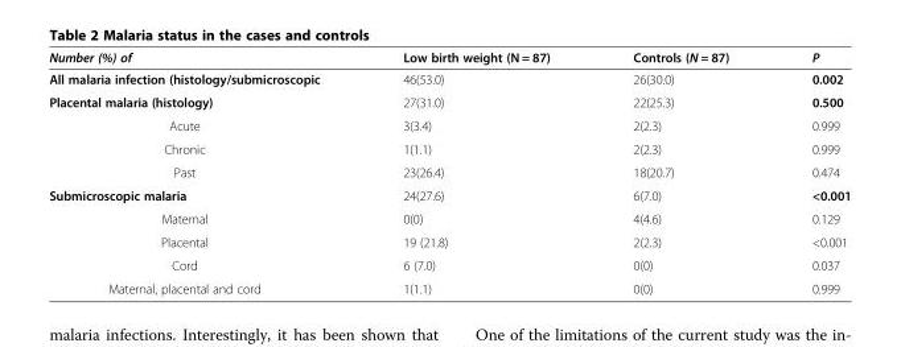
<table><thead><tr><td>Number (%) of</td><td>Low birth weight (N = 87)</td><td>Controls (N = 87)</td><td>P</td></tr></thead><tbody><tr><td>All malaria infection (histology/submicroscopic</td><td>46(53.0)</td><td>26(30.0)</td><td>0.002</td></tr><tr><td>Placental malaria (histology)</td><td>27(31.0)</td><td>22(25.3)</td><td>0.500</td></tr><tr><td>Acute</td><td>3(3.4)</td><td>2(2.3)</td><td>0.999</td></tr><tr><td>Chronic</td><td>1(1.1)</td><td>2(2.3)</td><td>0.999</td></tr><tr><td>Past</td><td>23(26.4)</td><td>18(20.7)</td><td>0.474</td></tr><tr><td>Submicroscopic malaria</td><td>24(27.6)</td><td>6(7.0)</td><td>&lt;0.001</td></tr><tr><td>Maternal</td><td>0(0)</td><td>4(4.6)</td><td>0.129</td></tr><tr><td>Placental</td><td>19 (21.8)</td><td>2(2.3)</td><td>&lt;0.001</td></tr><tr><td>Cord</td><td>6 (7.0)</td><td>0(0)</td><td>0.037</td></tr><tr><td>Maternal, placental and cord</td><td>1(1.1)</td><td>0(0)</td><td>0.999</td></tr></tbody></table>